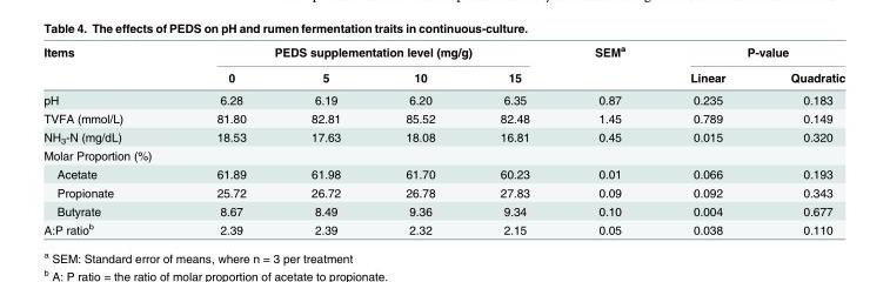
<table><thead><tr><td rowspan="2">Items</td><td colspan="4">PEDS supplementation level (mg/g)</td><td rowspan="2">SEM<sup>a</sup></td><td colspan="2">P-value</td></tr><tr><td>0</td><td>5</td><td>10</td><td>15</td><td>Linear</td><td>Quadratic</td></tr></thead><tbody><tr><td>pH</td><td>6.28</td><td>6.19</td><td>6.20</td><td>6.35</td><td>0.87</td><td>0.235</td><td>0.183</td></tr><tr><td>TVFA (mmol/L)</td><td>81.80</td><td>82.81</td><td>85.52</td><td>82.48</td><td>1.45</td><td>0.789</td><td>0.149</td></tr><tr><td>NH<sub>3</sub>-N (mg/dL)</td><td>18.53</td><td>17.63</td><td>18.08</td><td>16.81</td><td>0.45</td><td>0.015</td><td>0.320</td></tr><tr><td colspan="8">Molar Proportion (%)</td></tr><tr><td>Acetate</td><td>61.89</td><td>61.98</td><td>61.70</td><td>60.23</td><td>0.01</td><td>0.066</td><td>0.193</td></tr><tr><td>Propionate</td><td>25.72</td><td>26.72</td><td>26.78</td><td>27.83</td><td>0.09</td><td>0.092</td><td>0.343</td></tr><tr><td>Butyrate</td><td>8.67</td><td>8.49</td><td>9.36</td><td>9.34</td><td>0.10</td><td>0.004</td><td>0.677</td></tr><tr><td>A:P ratio<sup>b</sup></td><td>2.39</td><td>2.39</td><td>2.32</td><td>2.15</td><td>0.05</td><td>0.038</td><td>0.110</td></tr></tbody></table>